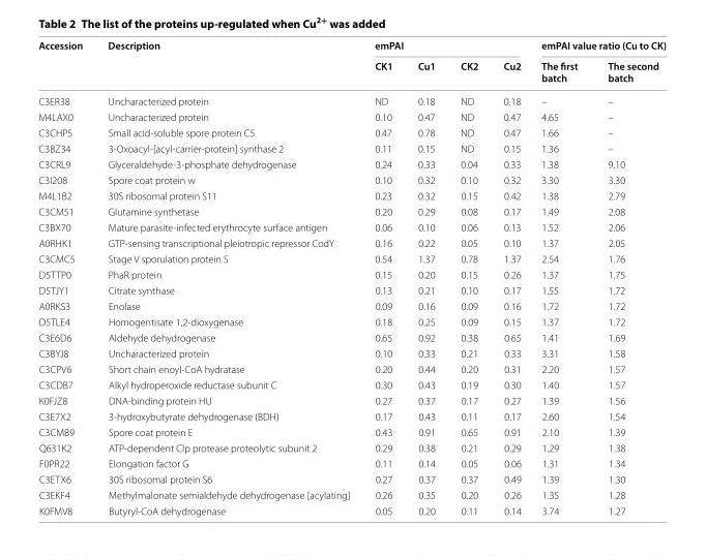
<table><thead><tr><td rowspan="2">Accession</td><td rowspan="2">Description</td><td colspan="4">emPAI</td><td colspan="2">emPAI value ratio (Cu to CK)</td></tr><tr><td>CK1</td><td>Cu1</td><td>CK2</td><td>Cu2</td><td>The first batch</td><td>The second batch</td></tr></thead><tbody><tr><td>C3ER38</td><td>Uncharacterized protein</td><td>ND</td><td>0.18</td><td>ND</td><td>0.18</td><td>–</td><td>–</td></tr><tr><td>M4LAX0</td><td>Uncharacterized protein</td><td>0.10</td><td>0.47</td><td>ND</td><td>0.47</td><td>4.65</td><td>–</td></tr><tr><td>C3CHP5</td><td>Small acid-soluble spore protein C5</td><td>0.47</td><td>0.78</td><td>ND</td><td>0.47</td><td>1.66</td><td>–</td></tr><tr><td>C3BZ34</td><td>3-Oxoacyl-[acyl-carrier-protein] synthase 2</td><td>0.11</td><td>0.15</td><td>ND</td><td>0.15</td><td>1.36</td><td>–</td></tr><tr><td>C3CRL9</td><td>Glyceraldehyde-3-phosphate dehydrogenase</td><td>0.24</td><td>0.33</td><td>0.04</td><td>0.33</td><td>1.38</td><td>9.10</td></tr><tr><td>C3I208</td><td>Spore coat protein w</td><td>0.10</td><td>0.32</td><td>0.10</td><td>0.32</td><td>3.30</td><td>3.30</td></tr><tr><td>M4L1B2</td><td>30S ribosomal protein S11</td><td>0.23</td><td>0.32</td><td>0.15</td><td>0.42</td><td>1.38</td><td>2.79</td></tr><tr><td>C3CM51</td><td>Glutamine synthetase</td><td>0.20</td><td>0.29</td><td>0.08</td><td>0.17</td><td>1.49</td><td>2.08</td></tr><tr><td>C3BX70</td><td>Mature parasite-infected erythrocyte surface antigen</td><td>0.06</td><td>0.10</td><td>0.06</td><td>0.13</td><td>1.52</td><td>2.06</td></tr><tr><td>A0RHK1</td><td>GTP-sensing transcriptional pleiotropic repressor CodY</td><td>0.16</td><td>0.22</td><td>0.05</td><td>0.10</td><td>1.37</td><td>2.05</td></tr><tr><td>C3CMC5</td><td>Stage V sporulation protein S</td><td>0.54</td><td>1.37</td><td>0.78</td><td>1.37</td><td>2.54</td><td>1.76</td></tr><tr><td>D5TTP0</td><td>PhaR protein</td><td>0.15</td><td>0.20</td><td>0.15</td><td>0.26</td><td>1.37</td><td>1.75</td></tr><tr><td>D5TJY1</td><td>Citrate synthase</td><td>0.13</td><td>0.21</td><td>0.10</td><td>0.17</td><td>1.55</td><td>1.72</td></tr><tr><td>A0RKS3</td><td>Enolase</td><td>0.09</td><td>0.16</td><td>0.09</td><td>0.16</td><td>1.72</td><td>1.72</td></tr><tr><td>D5TLE4</td><td>Homogentisate 1,2-dioxygenase</td><td>0.18</td><td>0.25</td><td>0.09</td><td>0.15</td><td>1.37</td><td>1.72</td></tr><tr><td>C3E6D6</td><td>Aldehyde dehydrogenase</td><td>0.65</td><td>0.92</td><td>0.38</td><td>0.65</td><td>1.41</td><td>1.69</td></tr><tr><td>C3BYJ8</td><td>Uncharacterized protein</td><td>0.10</td><td>0.33</td><td>0.21</td><td>0.33</td><td>3.31</td><td>1.58</td></tr><tr><td>C3CPV6</td><td>Short chain enoyl-CoA hydratase</td><td>0.20</td><td>0.44</td><td>0.20</td><td>0.31</td><td>2.20</td><td>1.57</td></tr><tr><td>C3CDB7</td><td>Alkyl hydroperoxide reductase subunit C</td><td>0.30</td><td>0.43</td><td>0.19</td><td>0.30</td><td>1.40</td><td>1.57</td></tr><tr><td>K0FJZ8</td><td>DNA-binding protein HU</td><td>0.27</td><td>0.37</td><td>0.17</td><td>0.27</td><td>1.39</td><td>1.56</td></tr><tr><td>C3E7X2</td><td>3-hydroxybutyrate dehydrogenase (BDH)</td><td>0.17</td><td>0.43</td><td>0.11</td><td>0.17</td><td>2.60</td><td>1.54</td></tr><tr><td>C3CMB9</td><td>Spore coat protein E</td><td>0.43</td><td>0.91</td><td>0.65</td><td>0.91</td><td>2.10</td><td>1.39</td></tr><tr><td>Q631K2</td><td>ATP-dependent Clp protease proteolytic subunit 2</td><td>0.29</td><td>0.38</td><td>0.21</td><td>0.29</td><td>1.29</td><td>1.38</td></tr><tr><td>F0PR22</td><td>Elongation factor G</td><td>0.11</td><td>0.14</td><td>0.05</td><td>0.06</td><td>1.31</td><td>1.34</td></tr><tr><td>C3ETX6</td><td>30S ribosomal protein S6</td><td>0.27</td><td>0.37</td><td>0.37</td><td>0.49</td><td>1.39</td><td>1.30</td></tr><tr><td>C3EKF4</td><td>Methylmalonate semialdehyde dehydrogenase [acylating]</td><td>0.26</td><td>0.35</td><td>0.20</td><td>0.26</td><td>1.35</td><td>1.28</td></tr><tr><td>K0FMV8</td><td>Butyryl-CoA dehydrogenase</td><td>0.05</td><td>0.20</td><td>0.11</td><td>0.14</td><td>3.74</td><td>1.27</td></tr></tbody></table>